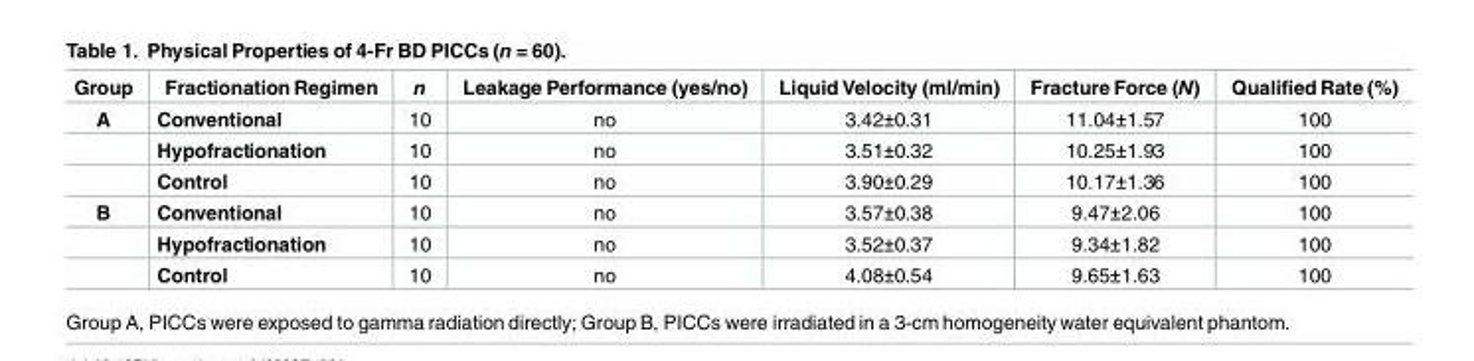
<table><thead><tr><td>Group</td><td>Fractionation Regimen</td><td>n</td><td>Leakage Performance (yes/no)</td><td>Liquid Velocity (ml/min)</td><td>Fracture Force (N)</td><td>Qualified Rate (%)</td></tr></thead><tbody><tr><td rowspan="3">A</td><td>Conventional</td><td>10</td><td>no</td><td>3.42±0.31</td><td>11.04±1.57</td><td>100</td></tr><tr><td>Hypofractionation</td><td>10</td><td>no</td><td>3.51±0.32</td><td>10.25±1.93</td><td>100</td></tr><tr><td>Control</td><td>10</td><td>no</td><td>3.90±0.29</td><td>10.17±1.36</td><td>100</td></tr><tr><td rowspan="3">B</td><td>Conventional</td><td>10</td><td>no</td><td>3.57±0.38</td><td>9.47±2.06</td><td>100</td></tr><tr><td>Hypofractionation</td><td>10</td><td>no</td><td>3.52±0.37</td><td>9.34±1.82</td><td>100</td></tr><tr><td>Control</td><td>10</td><td>no</td><td>4.08±0.54</td><td>9.65±1.63</td><td>100</td></tr></tbody></table>